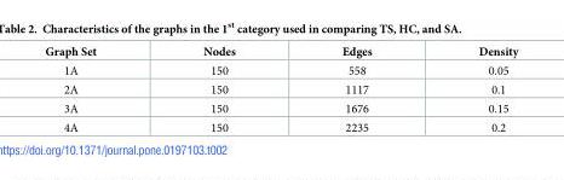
<table><thead><tr><td>Graph Set</td><td>Nodes</td><td>Edges</td><td>Density</td></tr></thead><tbody><tr><td>1A</td><td>150</td><td>558</td><td>0.05</td></tr><tr><td>2A</td><td>150</td><td>1117</td><td>0.1</td></tr><tr><td>3A</td><td>150</td><td>1676</td><td>0.15</td></tr><tr><td>4A</td><td>150</td><td>2235</td><td>0.2</td></tr></tbody></table>